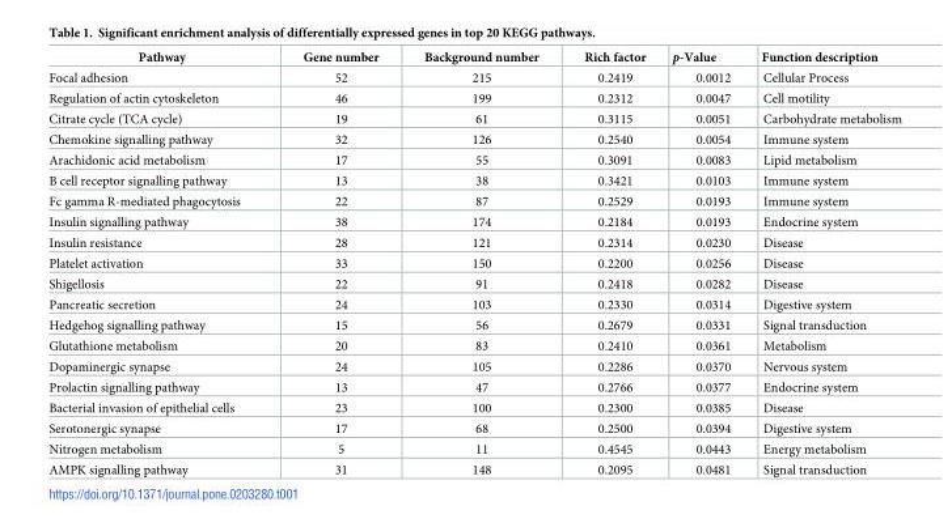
<table><thead><tr><td>Pathway</td><td>Gene number</td><td>Background number</td><td>Rich factor</td><td>p-Value</td><td>Function description</td></tr></thead><tbody><tr><td>Focal adhesion</td><td>52</td><td>215</td><td>0.2419</td><td>0.0012</td><td>Cellular Process</td></tr><tr><td>Regulation of actin cytoskeleton</td><td>46</td><td>199</td><td>0.2312</td><td>0.0047</td><td>Cell motility</td></tr><tr><td>Citrate cycle (TCA cycle)</td><td>19</td><td>61</td><td>0.3115</td><td>0.0051</td><td>Carbohydrate metabolism</td></tr><tr><td>Chemokine signalling pathway</td><td>32</td><td>126</td><td>0.2540</td><td>0.0054</td><td>Immune system</td></tr><tr><td>Arachidonic acid metabolism</td><td>17</td><td>55</td><td>0.3091</td><td>0.0083</td><td>Lipid metabolism</td></tr><tr><td>B cell receptor signalling pathway</td><td>13</td><td>38</td><td>0.3421</td><td>0.0103</td><td>Immune system</td></tr><tr><td>Fc gamma R-mediated phagocytosis</td><td>22</td><td>87</td><td>0.2529</td><td>0.0193</td><td>Immune system</td></tr><tr><td>Insulin signalling pathway</td><td>38</td><td>174</td><td>0.2184</td><td>0.0193</td><td>Endocrine system</td></tr><tr><td>Insulin resistance</td><td>28</td><td>121</td><td>0.2314</td><td>0.0230</td><td>Disease</td></tr><tr><td>Platelet activation</td><td>33</td><td>150</td><td>0.2200</td><td>0.0256</td><td>Disease</td></tr><tr><td>Shigellosis</td><td>22</td><td>91</td><td>0.2418</td><td>0.0282</td><td>Disease</td></tr><tr><td>Pancreatic secretion</td><td>24</td><td>103</td><td>0.2330</td><td>0.0314</td><td>Digestive system</td></tr><tr><td>Hedgehog signalling pathway</td><td>15</td><td>56</td><td>0.2679</td><td>0.0331</td><td>Signal transduction</td></tr><tr><td>Glutathione metabolism</td><td>20</td><td>83</td><td>0.2410</td><td>0.0361</td><td>Metabolism</td></tr><tr><td>Dopaminergic synapse</td><td>24</td><td>105</td><td>0.2286</td><td>0.0370</td><td>Nervous system</td></tr><tr><td>Prolactin signalling pathway</td><td>13</td><td>47</td><td>0.2766</td><td>0.0377</td><td>Endocrine system</td></tr><tr><td>Bacterial invasion of epithelial cells</td><td>23</td><td>100</td><td>0.2300</td><td>0.0385</td><td>Disease</td></tr><tr><td>Serotonergic synapse</td><td>17</td><td>68</td><td>0.2500</td><td>0.0394</td><td>Digestive system</td></tr><tr><td>Nitrogen metabolism</td><td>5</td><td>11</td><td>0.4545</td><td>0.0443</td><td>Energy metabolism</td></tr><tr><td>AMPK signalling pathway</td><td>31</td><td>148</td><td>0.2095</td><td>0.0481</td><td>Signal transduction</td></tr></tbody></table>